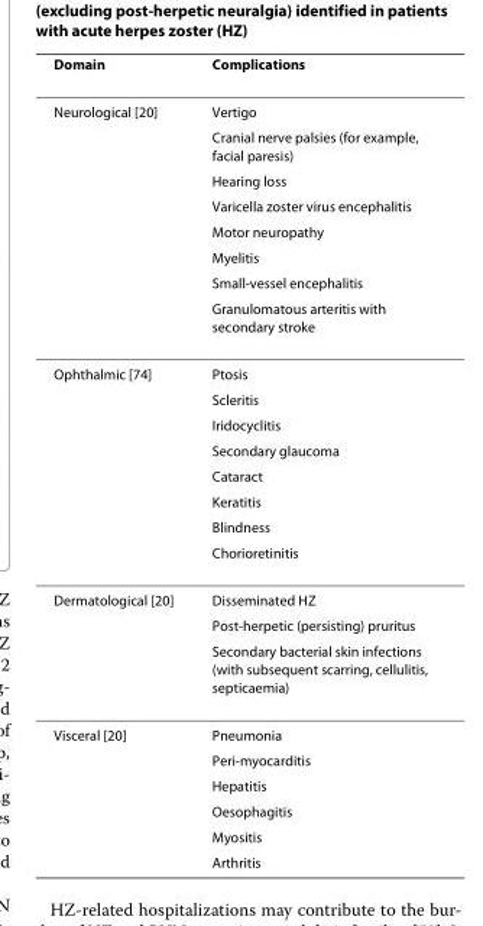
<table><thead><tr><td>Domain</td><td>Complications</td></tr></thead><tbody><tr><td rowspan="8">Neurological [20]</td><td>Vertigo</td></tr><tr><td>Cranial nerve palsies (for example, facial paresis)</td></tr><tr><td>Hearing loss</td></tr><tr><td>Varicella zoster virus encephalitis</td></tr><tr><td>Motor neuropathy</td></tr><tr><td>Myelitis</td></tr><tr><td>Small-vessel encephalitis</td></tr><tr><td>Granulomatous arteritis with secondary stroke</td></tr><tr><td rowspan="8">Ophthalmic [74]</td><td>Ptosis</td></tr><tr><td>Scleritis</td></tr><tr><td>Iridocyclitis</td></tr><tr><td>Secondary glaucoma</td></tr><tr><td>Cataract</td></tr><tr><td>Keratitis</td></tr><tr><td>Blindness</td></tr><tr><td>Chorioretinitis</td></tr><tr><td rowspan="3">Dermatological [20]</td><td>Disseminated HZ</td></tr><tr><td>Post-herpetic (persisting) pruritus</td></tr><tr><td>Secondary bacterial skin infections (with subsequent scarring, cellulitis, septicaemia)</td></tr><tr><td rowspan="6">Visceral [20]</td><td>Pneumonia</td></tr><tr><td>Peri-myocarditis</td></tr><tr><td>Hepatitis</td></tr><tr><td>Oesophagitis</td></tr><tr><td>Myositis</td></tr><tr><td>Arthritis</td></tr></tbody></table>